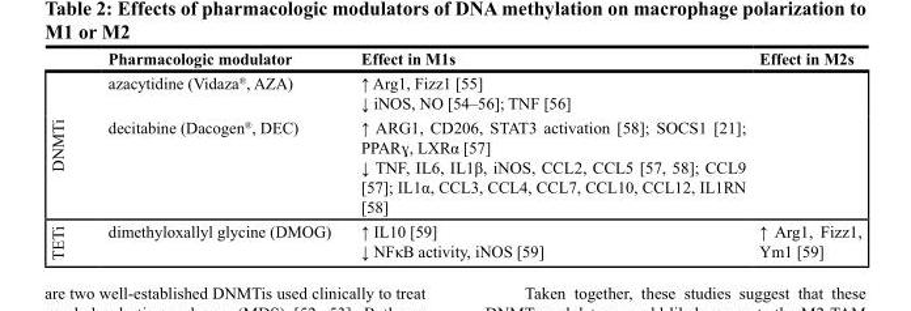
<table><thead><tr><td></td><td>Pharmacologic modulator</td><td>Effect in M1s</td><td>Effect in M2s</td></tr></thead><tbody><tr><td rowspan="2">DNMTi</td><td>azacytidine (Vidaza<sup>®</sup>, AZA)</td><td>↑ Arg1, Fizz1 [55] ↓ iNOS, NO [54–56]; TNF [56]</td><td></td></tr><tr><td>decitabine (Dacogen<sup>®</sup>, DEC)</td><td>↑ ARG1, CD206, STAT3 activation [58]; SOCS1 [21]; PPARɣ, LXRα [57] ↓ TNF, IL6, IL1β, iNOS, CCL2, CCL5 [57, 58]; CCL9 [57]; IL1α, CCL3, CCL4, CCL7, CCL10, CCL12, IL1RN [58]</td><td></td></tr><tr><td>TETi</td><td>dimethyloxallyl glycine (DMOG)</td><td>↑ IL10 [59] ↓ NFκB activity, iNOS [59]</td><td>↑ Arg1, Fizz1, Ym1 [59]</td></tr></tbody></table>